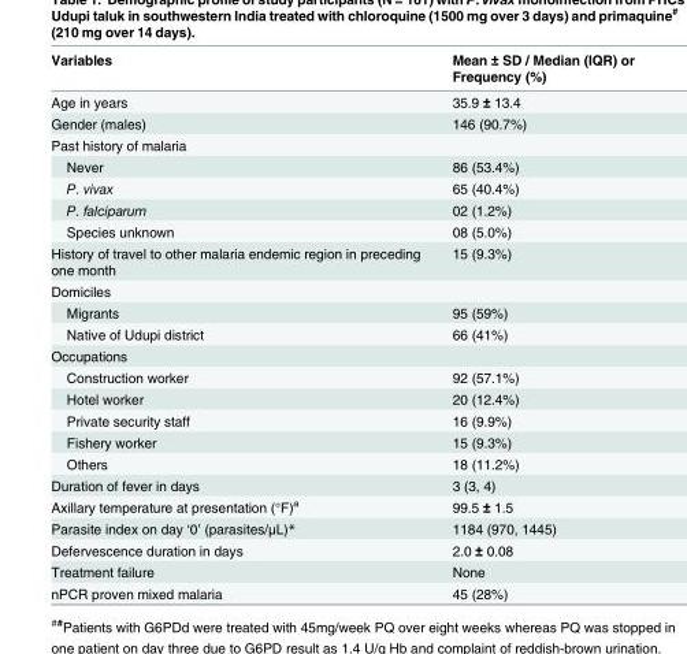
<table><thead><tr><td>Variables</td><td>Mean ± SD / Median (IQR) or Frequency (%)</td></tr></thead><tbody><tr><td>Age in years</td><td>35.9 ± 13.4</td></tr><tr><td>Gender (males)</td><td>146 (90.7%)</td></tr><tr><td colspan="2">Past history of malaria</td></tr><tr><td>Never</td><td>86 (53.4%)</td></tr><tr><td>P. vivax</td><td>65 (40.4%)</td></tr><tr><td>P. falciparum</td><td>02 (1.2%)</td></tr><tr><td>Species unknown</td><td>08 (5.0%)</td></tr><tr><td>History of travel to other malaria endemic region in preceding one month</td><td>15 (9.3%)</td></tr><tr><td colspan="2">Domiciles</td></tr><tr><td>Migrants</td><td>95 (59%)</td></tr><tr><td>Native of Udupi district</td><td>66 (41%)</td></tr><tr><td colspan="2">Occupations</td></tr><tr><td>Construction worker</td><td>92 (57.1%)</td></tr><tr><td>Hotel worker</td><td>20 (12.4%)</td></tr><tr><td>Private security staff</td><td>16 (9.9%)</td></tr><tr><td>Fishery worker</td><td>15 (9.3%)</td></tr><tr><td>Others</td><td>18 (11.2%)</td></tr><tr><td>Duration of fever in days</td><td>3 (3, 4)</td></tr><tr><td>Axillary temperature at presentation (°F)<sup>a</sup></td><td>99.5 ± 1.5</td></tr><tr><td>Parasite index on day ‘0’ (parasites/μL)*</td><td>1184 (970, 1445)</td></tr><tr><td>Defervescence duration in days</td><td>2.0 ± 0.08</td></tr><tr><td>Treatment failure</td><td>None</td></tr><tr><td>nPCR proven mixed malaria</td><td>45 (28%)</td></tr></tbody></table>